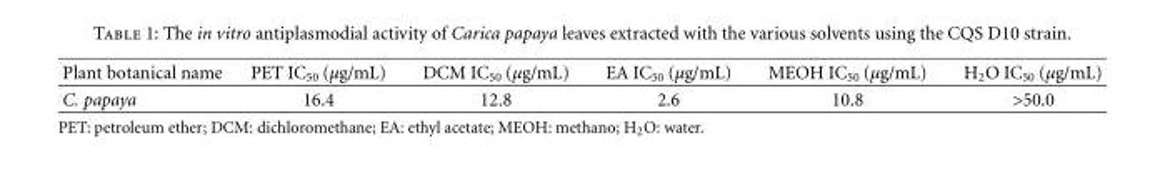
<table><thead><tr><td>Plant botanical name</td><td>PET IC<sub>50</sub> (μg/mL)</td><td>DCM IC<sub>50</sub> (μg/mL)</td><td>EA IC<sub>50</sub> (μg/mL)</td><td>MEOH IC<sub>50</sub> (μg/mL)</td><td>H<sub>2</sub>O IC<sub>50</sub> (μg/mL)</td></tr></thead><tbody><tr><td>C. papaya</td><td>16.4</td><td>12.8</td><td>2.6</td><td>10.8</td><td>&gt;50.0</td></tr></tbody></table>